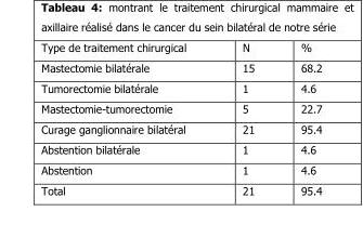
<table><thead><tr><td>Type de traitement chirurgical</td><td>N</td><td>%</td></tr></thead><tbody><tr><td>Mastectomie bilatérale</td><td>15</td><td>68.2</td></tr><tr><td>Tumorectomie bilatérale</td><td>1</td><td>4.6</td></tr><tr><td>Mastectomie-tumorectomie</td><td>5</td><td>22.7</td></tr><tr><td>Curage ganglionnaire bilatéral</td><td>21</td><td>95.4</td></tr><tr><td>Abstention bilatérale</td><td>1</td><td>4.6</td></tr><tr><td>Abstention</td><td>1</td><td>4.6</td></tr><tr><td>Total</td><td>21</td><td>95.4</td></tr></tbody></table>